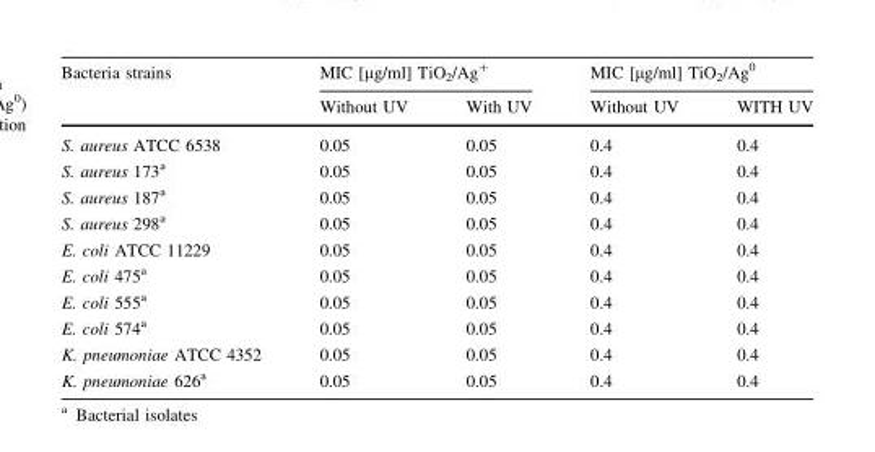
<table><thead><tr><td rowspan="2">Bacteria strains</td><td colspan="2">MIC [µg/ml] TiO<sub>2</sub>/Ag<sup>+</sup></td><td colspan="2">MIC [µg/ml] TiO<sub>2</sub>/Ag<sup>0</sup></td></tr><tr><td>Without UV</td><td>With UV</td><td>Without UV</td><td>WITH UV</td></tr></thead><tbody><tr><td>S. aureus ATCC 6538</td><td>0.05</td><td>0.05</td><td>0.4</td><td>0.4</td></tr><tr><td>S. aureus 173<sup>a</sup></td><td>0.05</td><td>0.05</td><td>0.4</td><td>0.4</td></tr><tr><td>S. aureus 187<sup>a</sup></td><td>0.05</td><td>0.05</td><td>0.4</td><td>0.4</td></tr><tr><td>S. aureus 298<sup>a</sup></td><td>0.05</td><td>0.05</td><td>0.4</td><td>0.4</td></tr><tr><td>E. coli ATCC 11229</td><td>0.05</td><td>0.05</td><td>0.4</td><td>0.4</td></tr><tr><td>E. coli 475<sup>a</sup></td><td>0.05</td><td>0.05</td><td>0.4</td><td>0.4</td></tr><tr><td>E. coli 555<sup>a</sup></td><td>0.05</td><td>0.05</td><td>0.4</td><td>0.4</td></tr><tr><td>E. coli 574<sup>a</sup></td><td>0.05</td><td>0.05</td><td>0.4</td><td>0.4</td></tr><tr><td>K. pneumoniae ATCC 4352</td><td>0.05</td><td>0.05</td><td>0.4</td><td>0.4</td></tr><tr><td>K. pneumoniae 626<sup>a</sup></td><td>0.05</td><td>0.05</td><td>0.4</td><td>0.4</td></tr></tbody></table>